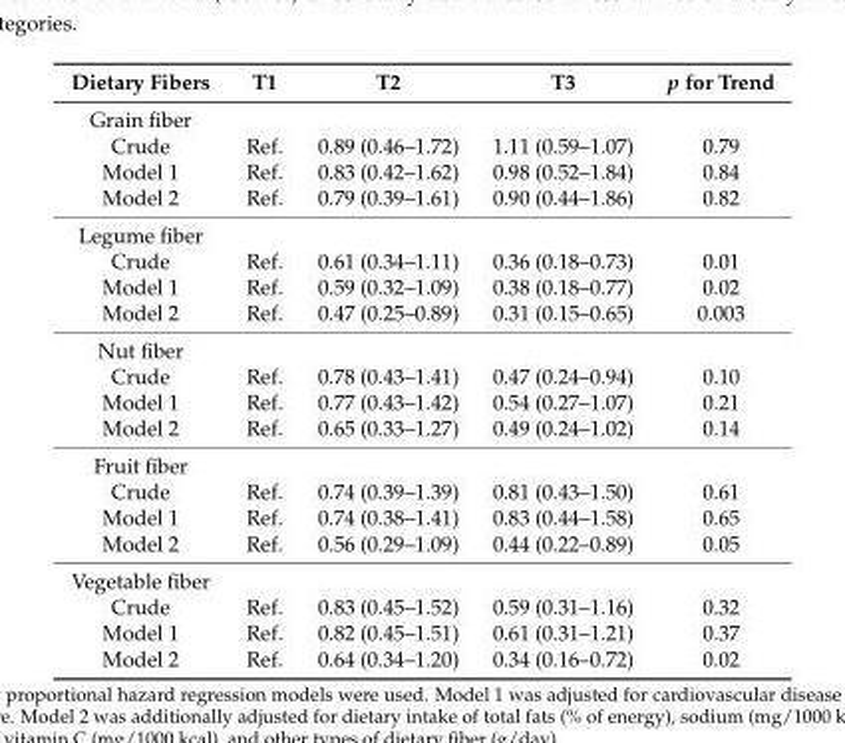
<table><thead><tr><td>Dietary Fibers</td><td>T1</td><td>T2</td><td>T3</td><td>p for Trend</td></tr></thead><tbody><tr><td colspan="5">Grain fiber</td></tr><tr><td>Crude</td><td>Ref.</td><td>0.89 (0.46–1.72)</td><td>1.11 (0.59–1.07)</td><td>0.79</td></tr><tr><td>Model 1</td><td>Ref.</td><td>0.83 (0.42–1.62)</td><td>0.98 (0.52–1.84)</td><td>0.84</td></tr><tr><td>Model 2</td><td>Ref.</td><td>0.79 (0.39–1.61)</td><td>0.90 (0.44–1.86)</td><td>0.82</td></tr><tr><td colspan="5">Legume fiber</td></tr><tr><td>Crude</td><td>Ref.</td><td>0.61 (0.34–1.11)</td><td>0.36 (0.18–0.73)</td><td>0.01</td></tr><tr><td>Model 1</td><td>Ref.</td><td>0.59 (0.32–1.09)</td><td>0.38 (0.18–0.77)</td><td>0.02</td></tr><tr><td>Model 2</td><td>Ref.</td><td>0.47 (0.25–0.89)</td><td>0.31 (0.15–0.65)</td><td>0.003</td></tr><tr><td colspan="5">Nut fiber</td></tr><tr><td>Crude</td><td>Ref.</td><td>0.78 (0.43–1.41)</td><td>0.47 (0.24–0.94)</td><td>0.10</td></tr><tr><td>Model 1</td><td>Ref.</td><td>0.77 (0.43–1.42)</td><td>0.54 (0.27–1.07)</td><td>0.21</td></tr><tr><td>Model 2</td><td>Ref.</td><td>0.65 (0.33–1.27)</td><td>0.49 (0.24–1.02)</td><td>0.14</td></tr><tr><td colspan="5">Fruit fiber</td></tr><tr><td>Crude</td><td>Ref.</td><td>0.74 (0.39–1.39)</td><td>0.81 (0.43–1.50)</td><td>0.61</td></tr><tr><td>Model 1</td><td>Ref.</td><td>0.74 (0.38–1.41)</td><td>0.83 (0.44–1.58)</td><td>0.65</td></tr><tr><td>Model 2</td><td>Ref.</td><td>0.56 (0.29–1.09)</td><td>0.44 (0.22–0.89)</td><td>0.05</td></tr><tr><td colspan="5">Vegetable fiber</td></tr><tr><td>Crude</td><td>Ref.</td><td>0.83 (0.45–1.52)</td><td>0.59 (0.31–1.16)</td><td>0.32</td></tr><tr><td>Model 1</td><td>Ref.</td><td>0.82 (0.45–1.51)</td><td>0.61 (0.31–1.21)</td><td>0.37</td></tr><tr><td>Model 2</td><td>Ref.</td><td>0.64 (0.34–1.20)</td><td>0.34 (0.16–0.72)</td><td>0.02</td></tr></tbody></table>